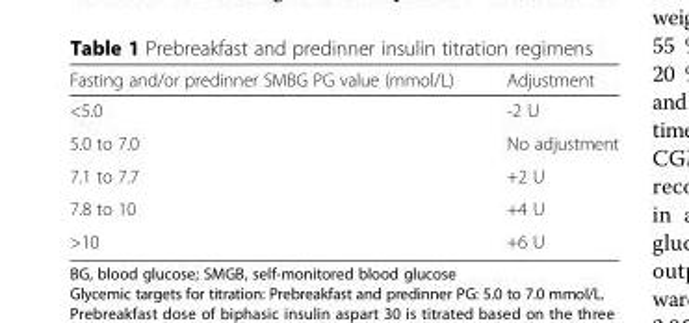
<table><thead><tr><td>Fasting and/or predinner SMBG PG value (mmol/L)</td><td>Adjustment</td></tr></thead><tbody><tr><td>&lt;5.0</td><td>-2 U</td></tr><tr><td>5.0 to 7.0</td><td>No adjustment</td></tr><tr><td>7.1 to 7.7</td><td>+2 U</td></tr><tr><td>7.8 to 10</td><td>+4 U</td></tr><tr><td>&gt;10</td><td>+6 U</td></tr></tbody></table>